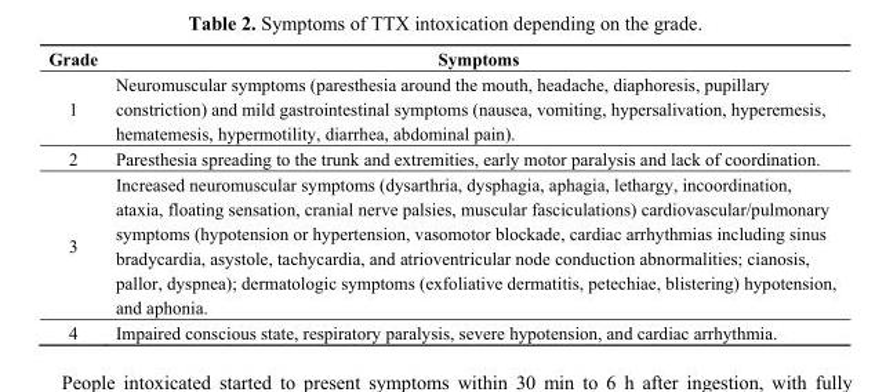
<table><thead><tr><td>Grade</td><td>Symptoms</td></tr></thead><tbody><tr><td>1</td><td>Neuromuscular symptoms (paresthesia around the mouth, headache, diaphoresis, pupillary constriction) and mild gastrointestinal symptoms (nausea, vomiting, hypersalivation, hyperemesis, hematemesis, hypermotility, diarrhea, abdominal pain).</td></tr><tr><td>2</td><td>Paresthesia spreading to the trunk and extremities, early motor paralysis and lack of coordination.</td></tr><tr><td>3</td><td>Increased neuromuscular symptoms (dysarthria, dysphagia, aphagia, lethargy, incoordination, ataxia, floating sensation, cranial nerve palsies, muscular fasciculations) cardiovascular/pulmonary symptoms (hypotension or hypertension, vasomotor blockade, cardiac arrhythmias including sinus bradycardia, asystole, tachycardia, and atrioventricular node conduction abnormalities; cianosis, pallor, dyspnea); dermatologic symptoms (exfoliative dermatitis, petechiae, blistering) hypotension, and aphonia.</td></tr><tr><td>4</td><td>Impaired conscious state, respiratory paralysis, severe hypotension, and cardiac arrhythmia.</td></tr></tbody></table>